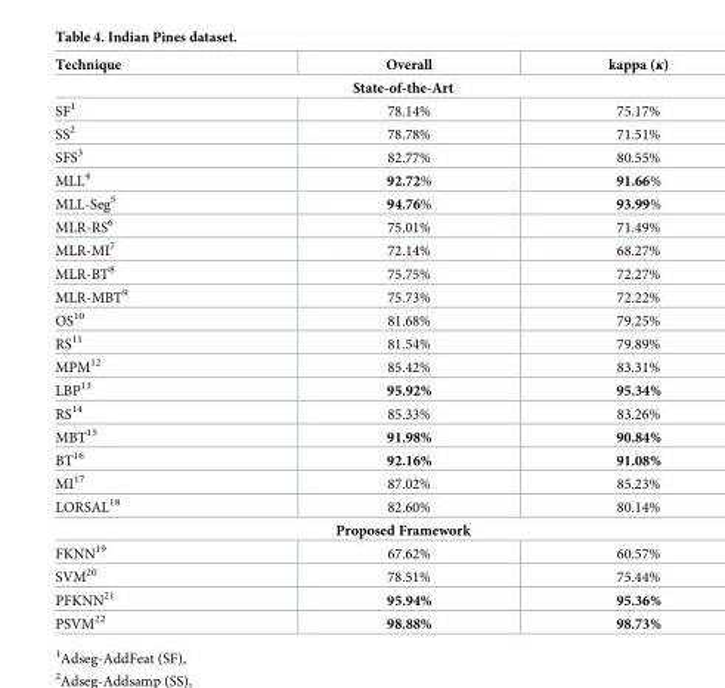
<table><thead><tr><td>Technique</td><td>Overall</td><td>kappa (κ)</td></tr></thead><tbody><tr><td colspan="3">State-of-the-Art</td></tr><tr><td>SF<sup>1</sup></td><td>78.14%</td><td>75.17%</td></tr><tr><td>SS<sup>2</sup></td><td>78.78%</td><td>71.51%</td></tr><tr><td>SFS<sup>3</sup></td><td>82.77%</td><td>80.55%</td></tr><tr><td>MLL<sup>4</sup></td><td>92.72%</td><td>91.66%</td></tr><tr><td>MLL-Seg<sup>5</sup></td><td>94.76%</td><td>93.99%</td></tr><tr><td>MLR-RS<sup>6</sup></td><td>75.01%</td><td>71.49%</td></tr><tr><td>MLR-MI<sup>7</sup></td><td>72.14%</td><td>68.27%</td></tr><tr><td>MLR-BT<sup>8</sup></td><td>75.75%</td><td>72.27%</td></tr><tr><td>MLR-MBT<sup>9</sup></td><td>75.73%</td><td>72.22%</td></tr><tr><td>OS<sup>10</sup></td><td>81.68%</td><td>79.25%</td></tr><tr><td>RS<sup>11</sup></td><td>81.54%</td><td>79.89%</td></tr><tr><td>MPM<sup>12</sup></td><td>85.42%</td><td>83.31%</td></tr><tr><td>LBP<sup>13</sup></td><td>95.92%</td><td>95.34%</td></tr><tr><td>RS<sup>14</sup></td><td>85.33%</td><td>83.26%</td></tr><tr><td>MBT<sup>15</sup></td><td>91.98%</td><td>90.84%</td></tr><tr><td>BT<sup>16</sup></td><td>92.16%</td><td>91.08%</td></tr><tr><td>MI<sup>17</sup></td><td>87.02%</td><td>85.23%</td></tr><tr><td>LORSAL<sup>18</sup></td><td>82.60%</td><td>80.14%</td></tr><tr><td colspan="3">Proposed Framework</td></tr><tr><td>FKNN<sup>19</sup></td><td>67.62%</td><td>60.57%</td></tr><tr><td>SVM<sup>20</sup></td><td>78.51%</td><td>75.44%</td></tr><tr><td>PFKNN<sup>21</sup></td><td>95.94%</td><td>95.36%</td></tr><tr><td>PSVM<sup>22</sup></td><td>98.88%</td><td>98.73%</td></tr></tbody></table>